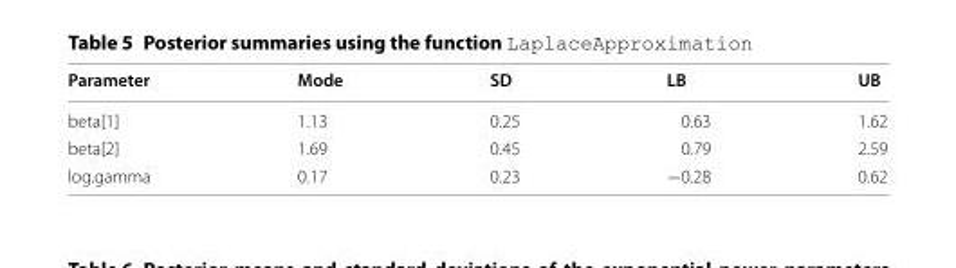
<table><thead><tr><td>Parameter</td><td>Mode</td><td>SD</td><td>LB</td><td>UB</td></tr></thead><tbody><tr><td>beta[1]</td><td>1.13</td><td>0.25</td><td>0.63</td><td>1.62</td></tr><tr><td>beta[2]</td><td>1.69</td><td>0.45</td><td>0.79</td><td>2.59</td></tr><tr><td>log.gamma</td><td>0.17</td><td>0.23</td><td>−0.28</td><td>0.62</td></tr></tbody></table>